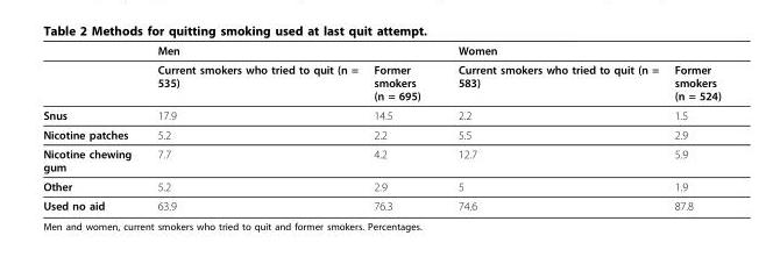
<table><thead><tr><td rowspan="2"></td><td colspan="2">Men</td><td colspan="2">Women</td></tr><tr><td>Current smokers who tried to quit (n = 535)</td><td>Former smokers (n = 695)</td><td>Current smokers who tried to quit (n = 583)</td><td>Former smokers (n = 524)</td></tr></thead><tbody><tr><td>Snus</td><td>17.9</td><td>14.5</td><td>2.2</td><td>1.5</td></tr><tr><td>Nicotine patches</td><td>5.2</td><td>2.2</td><td>5.5</td><td>2.9</td></tr><tr><td>Nicotine chewing gum</td><td>7.7</td><td>4.2</td><td>12.7</td><td>5.9</td></tr><tr><td>Other</td><td>5.2</td><td>2.9</td><td>5</td><td>1.9</td></tr><tr><td>Used no aid</td><td>63.9</td><td>76.3</td><td>74.6</td><td>87.8</td></tr></tbody></table>